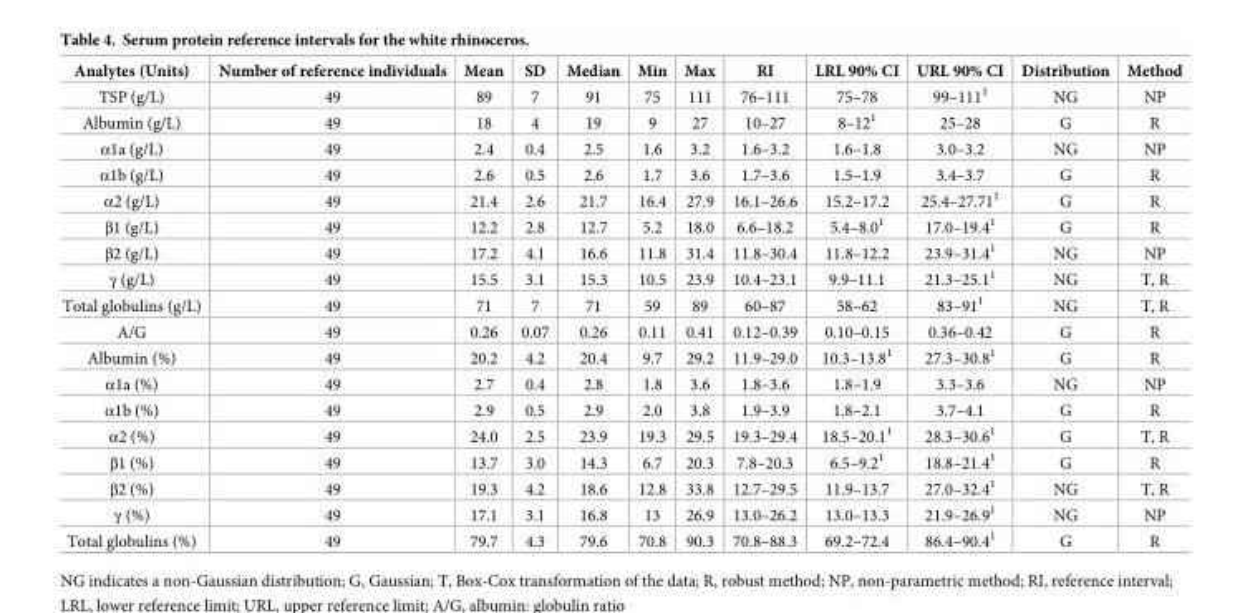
<table><thead><tr><td>Analytes (Units)</td><td>Number of reference individuals</td><td>Mean</td><td>SD</td><td>Median</td><td>Min</td><td>Max</td><td>RI</td><td>LRL 90% CI</td><td>URL 90% CI</td><td>Distribution</td><td>Method</td></tr></thead><tbody><tr><td>TSP (g/L)</td><td>49</td><td>89</td><td>7</td><td>91</td><td>75</td><td>111</td><td>76–111</td><td>75–78</td><td>99–111<sup>1</sup></td><td>NG</td><td>NP</td></tr><tr><td>Albumin (g/L)</td><td>49</td><td>18</td><td>4</td><td>19</td><td>9</td><td>27</td><td>10–27</td><td>8–12<sup>1</sup></td><td>25–28</td><td>G</td><td>R</td></tr><tr><td>α1a (g/L)</td><td>49</td><td>2.4</td><td>0.4</td><td>2.5</td><td>1.6</td><td>3.2</td><td>1.6–3.2</td><td>1.6–1.8</td><td>3.0–3.2</td><td>NG</td><td>NP</td></tr><tr><td>α1b (g/L)</td><td>49</td><td>2.6</td><td>0.5</td><td>2.6</td><td>1.7</td><td>3.6</td><td>1.7–3.6</td><td>1.5–1.9</td><td>3.4–3.7</td><td>G</td><td>R</td></tr><tr><td>α2 (g/L)</td><td>49</td><td>21.4</td><td>2.6</td><td>21.7</td><td>16.4</td><td>27.9</td><td>16.1–26.6</td><td>15.2–17.2</td><td>25.4–27.71<sup>1</sup></td><td>G</td><td>R</td></tr><tr><td>β1 (g/L)</td><td>49</td><td>12.2</td><td>2.8</td><td>12.7</td><td>5.2</td><td>18.0</td><td>6.6–18.2</td><td>5.4–8.0<sup>1</sup></td><td>17.0–19.4<sup>1</sup></td><td>G</td><td>R</td></tr><tr><td>β2 (g/L)</td><td>49</td><td>17.2</td><td>4.1</td><td>16.6</td><td>11.8</td><td>31.4</td><td>11.8–30.4</td><td>11.8–12.2</td><td>23.9–31.4<sup>1</sup></td><td>NG</td><td>NP</td></tr><tr><td>γ (g/L)</td><td>49</td><td>15.5</td><td>3.1</td><td>15.3</td><td>10.5</td><td>23.9</td><td>10.4–23.1</td><td>9.9–11.1</td><td>21.3–25.1<sup>1</sup></td><td>NG</td><td>T, R</td></tr><tr><td>Total globulins (g/L)</td><td>49</td><td>71</td><td>7</td><td>71</td><td>59</td><td>89</td><td>60–87</td><td>58–62</td><td>83–91<sup>1</sup></td><td>NG</td><td>T, R</td></tr><tr><td>A/G</td><td>49</td><td>0.26</td><td>0.07</td><td>0.26</td><td>0.11</td><td>0.41</td><td>0.12–0.39</td><td>0.10–0.15</td><td>0.36–0.42</td><td>G</td><td>R</td></tr><tr><td>Albumin (%)</td><td>49</td><td>20.2</td><td>4.2</td><td>20.4</td><td>9.7</td><td>29.2</td><td>11.9–29.0</td><td>10.3–13.8<sup>1</sup></td><td>27.3–30.8<sup>1</sup></td><td>G</td><td>R</td></tr><tr><td>α1a (%)</td><td>49</td><td>2.7</td><td>0.4</td><td>2.8</td><td>1.8</td><td>3.6</td><td>1.8–3.6</td><td>1.8–1.9</td><td>3.3–3.6</td><td>NG</td><td>NP</td></tr><tr><td>α1b (%)</td><td>49</td><td>2.9</td><td>0.5</td><td>2.9</td><td>2.0</td><td>3.8</td><td>1.9–3.9</td><td>1.8–2.1</td><td>3.7–4.1</td><td>G</td><td>R</td></tr><tr><td>α2 (%)</td><td>49</td><td>24.0</td><td>2.5</td><td>23.9</td><td>19.3</td><td>29.5</td><td>19.3–29.4</td><td>18.5–20.1<sup>1</sup></td><td>28.3–30.6<sup>1</sup></td><td>G</td><td>T, R</td></tr><tr><td>β1 (%)</td><td>49</td><td>13.7</td><td>3.0</td><td>14.3</td><td>6.7</td><td>20.3</td><td>7.8–20.3</td><td>6.5–9.2<sup>1</sup></td><td>18.8–21.4<sup>1</sup></td><td>G</td><td>R</td></tr><tr><td>β2 (%)</td><td>49</td><td>19.3</td><td>4.2</td><td>18.6</td><td>12.8</td><td>33.8</td><td>12.7–29.5</td><td>11.9–13.7</td><td>27.0–32.4<sup>1</sup></td><td>NG</td><td>T, R</td></tr><tr><td>γ (%)</td><td>49</td><td>17.1</td><td>3.1</td><td>16.8</td><td>13</td><td>26.9</td><td>13.0–26.2</td><td>13.0–13.3</td><td>21.9–26.9<sup>1</sup></td><td>NG</td><td>NP</td></tr><tr><td>Total globulins (%)</td><td>49</td><td>79.7</td><td>4.3</td><td>79.6</td><td>70.8</td><td>90.3</td><td>70.8–88.3</td><td>69.2–72.4</td><td>86.4–90.4<sup>1</sup></td><td>G</td><td>R</td></tr></tbody></table>